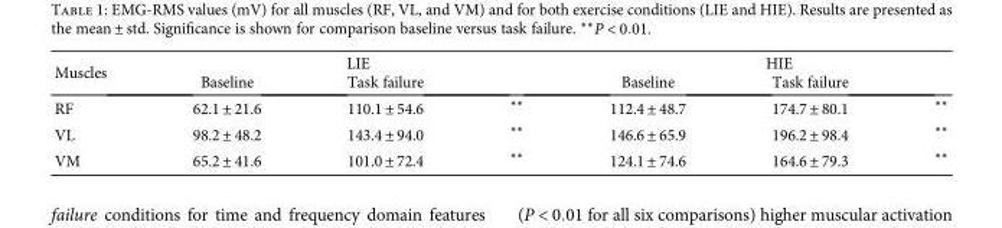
<table><thead><tr><td rowspan="2">Muscles</td><td colspan="3">LIE</td><td colspan="3">HIE</td></tr><tr><td>Baseline</td><td>Task failure</td><td></td><td>Baseline</td><td>Task failure</td><td></td></tr></thead><tbody><tr><td>RF</td><td>62.1 ± 21.6</td><td>110.1 ± 54.6</td><td>∗∗</td><td>112.4 ± 48.7</td><td>174.7 ± 80.1</td><td>∗∗</td></tr><tr><td>VL</td><td>98.2 ± 48.2</td><td>143.4 ± 94.0</td><td>∗∗</td><td>146.6 ± 65.9</td><td>196.2 ± 98.4</td><td>∗∗</td></tr><tr><td>VM</td><td>65.2 ± 41.6</td><td>101.0 ± 72.4</td><td>∗∗</td><td>124.1 ± 74.6</td><td>164.6 ± 79.3</td><td>∗∗</td></tr></tbody></table>